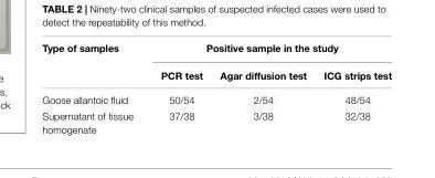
<table><thead><tr><td rowspan="2">Type of samples</td><td colspan="3">Positive sample in the study</td></tr><tr><td>PCR test</td><td>Agar diffusion test</td><td>ICG strips test</td></tr></thead><tbody><tr><td>Goose allantoic fluid</td><td>50/54</td><td>2/54</td><td>48/54</td></tr><tr><td>Supernatant of tissue homogenate</td><td>37/38</td><td>3/38</td><td>32/38</td></tr></tbody></table>